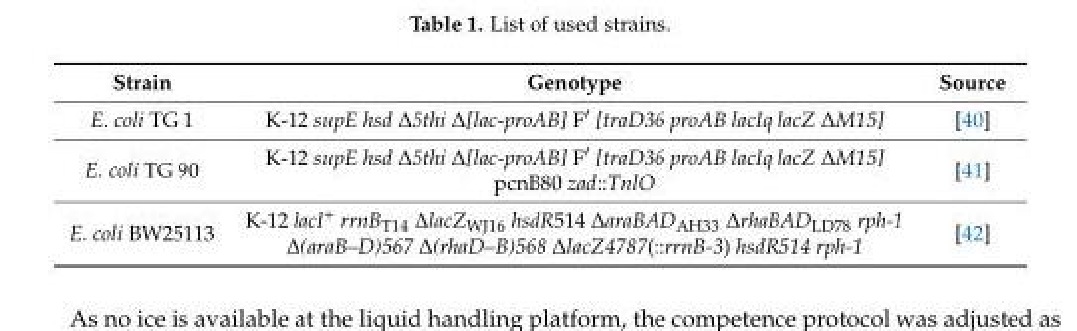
<table><thead><tr><td>Strain</td><td>Genotype</td><td>Source</td></tr></thead><tbody><tr><td>E. coli TG 1</td><td>K-12 supE hsd ∆5thi ∆[lac-proAB] F′ [traD36 proAB lacIq lacZ ∆M15]</td><td>[40]</td></tr><tr><td>E. coli TG 90</td><td>K-12 supE hsd ∆5thi ∆[lac-proAB] F′ [traD36 proAB lacIq lacZ ∆M15] pcnB80 zad::TnlO</td><td>[41]</td></tr><tr><td>E. coli BW25113</td><td>K-12 lacI+ rrnBT14 ∆lacZWJ16 hsdR514 ∆araBADAH33 ∆rhaBADLD78 rph-1 ∆(araB–D)567 ∆(rhaD–B)568 ∆lacZ4787(::rrnB-3) hsdR514 rph-1</td><td>[42]</td></tr></tbody></table>